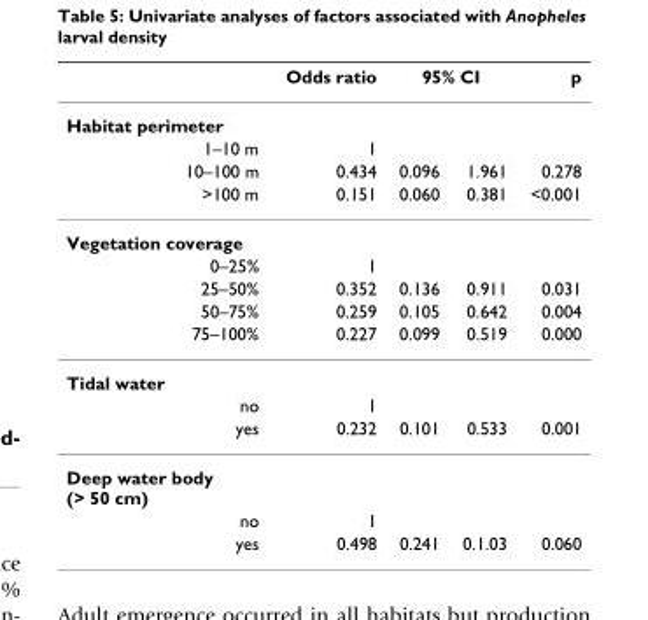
<table><thead><tr><td rowspan="2">Habitat perimeter</td><td rowspan="2">Odds ratio</td><td colspan="2">95% CI</td><td rowspan="2">p</td></tr><tr><td></td><td></td></tr></thead><tbody><tr><td>1–10 m</td><td>1</td><td></td><td></td><td></td></tr><tr><td>10–100 m</td><td>0.434</td><td>0.096</td><td>1.961</td><td>0.278</td></tr><tr><td>&gt;100 m</td><td>0.151</td><td>0.060</td><td>0.381</td><td>&lt;0.001</td></tr><tr><td colspan="5">Vegetation coverage</td></tr><tr><td>0–25%</td><td>1</td><td></td><td></td><td></td></tr><tr><td>25–50%</td><td>0.352</td><td>0.136</td><td>0.911</td><td>0.031</td></tr><tr><td>50–75%</td><td>0.259</td><td>0.105</td><td>0.642</td><td>0.004</td></tr><tr><td>75–100%</td><td>0.227</td><td>0.099</td><td>0.519</td><td>0.000</td></tr><tr><td colspan="5">Tidal water</td></tr><tr><td>no</td><td>1</td><td></td><td></td><td></td></tr><tr><td>yes</td><td>0.232</td><td>0.101</td><td>0.533</td><td>0.001</td></tr><tr><td colspan="5">Deep water body (&gt; 50 cm)</td></tr><tr><td>no</td><td>1</td><td></td><td></td><td></td></tr><tr><td>yes</td><td>0.498</td><td>0.241</td><td>0.1.03</td><td>0.060</td></tr></tbody></table>